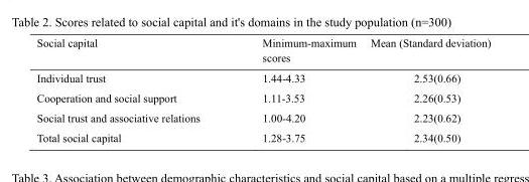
<table><thead><tr><td>Social capital</td><td>Minimum-maximum scores</td><td>Mean (Standard deviation)</td></tr></thead><tbody><tr><td>Individual trust</td><td>1.44-4.33</td><td>2.53(0.66)</td></tr><tr><td>Cooperation and social support</td><td>1.11-3.53</td><td>2.26(0.53)</td></tr><tr><td>Social trust and associative relations</td><td>1.00-4.20</td><td>2.23(0.62)</td></tr><tr><td>Total social capital</td><td>1.28-3.75</td><td>2.34(0.50)</td></tr></tbody></table>